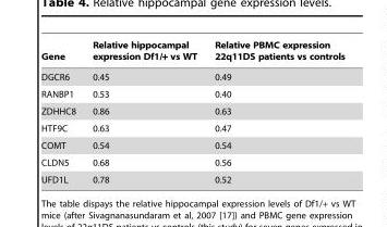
<table><thead><tr><td>Gene</td><td>Relative hippocampal expression Df1/+ vs WT</td><td>Relative PBMC expression 22q11DS patients vs controls</td></tr></thead><tbody><tr><td>DGCR6</td><td>0.45</td><td>0.49</td></tr><tr><td>RANBP1</td><td>0.53</td><td>0.40</td></tr><tr><td>ZDHHC8</td><td>0.86</td><td>0.63</td></tr><tr><td>HTF9C</td><td>0.63</td><td>0.47</td></tr><tr><td>COMT</td><td>0.54</td><td>0.54</td></tr><tr><td>CLDN5</td><td>0.68</td><td>0.56</td></tr><tr><td>UFD1L</td><td>0.78</td><td>0.52</td></tr></tbody></table>